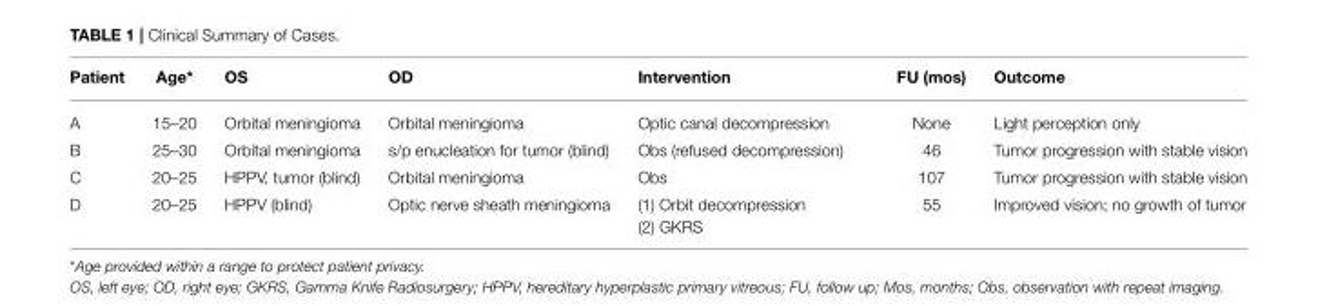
<table><thead><tr><td>Patient</td><td>Age*</td><td>OS</td><td>OD</td><td>Intervention</td><td>FU (mos)</td><td>Outcome</td></tr></thead><tbody><tr><td>A</td><td>15–20</td><td>Orbital meningioma</td><td>Orbital meningioma</td><td>Optic canal decompression</td><td>None</td><td>Light perception only</td></tr><tr><td>B</td><td>25–30</td><td>Orbital meningioma</td><td>s/p enucleation for tumor (blind)</td><td>Obs (refused decompression)</td><td>46</td><td>Tumor progression with stable vision</td></tr><tr><td>C</td><td>20–25</td><td>HPPV, tumor (blind)</td><td>Orbital meningioma</td><td>Obs</td><td>107</td><td>Tumor progression with stable vision</td></tr><tr><td>D</td><td>20–25</td><td>HPPV (blind)</td><td>Optic nerve sheath meningioma</td><td>(1) Orbit decompression (2) GKRS</td><td>55</td><td>Improved vision; no growth of tumor</td></tr></tbody></table>